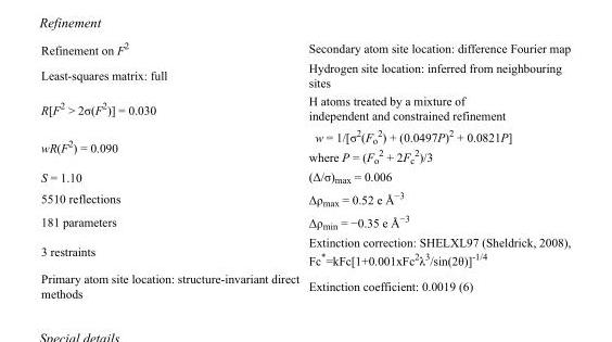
<table><tbody><tr><td>Refinement on F<sup>2</sup></td><td>Secondary atom site location: difference Fourier map</td></tr><tr><td>Least-squares matrix: full</td><td>Hydrogen site location: inferred from neighbouring sites</td></tr><tr><td>R[F<sup>2</sup> &gt; 2σ(F<sup>2</sup>)] = 0.030</td><td>H atoms treated by a mixture of independent and constrained refinement</td></tr><tr><td>wR(F<sup>2</sup>) = 0.090</td><td>w = 1/[σ<sup>2</sup>(F<sub>o</sub> <sup>2</sup>) + (0.0497P)<sup>2</sup> + 0.0821P] where P = (F<sub>o</sub> <sup>2</sup> + 2F<sub>c</sub> <sup>2</sup>)/3</td></tr><tr><td>S = 1.10</td><td>(Δ/σ)<sub>max</sub> = 0.006</td></tr><tr><td>5510 reflections</td><td>Δρ<sub>max</sub> = 0.52 e Å<sup>−3</sup></td></tr><tr><td>181 parameters</td><td>Δρ<sub>min</sub> = −0.35 e Å<sup>−3</sup></td></tr><tr><td>3 restraints</td><td>Extinction correction: SHELXL97 (Sheldrick, 2008), Fc*=kFc[1+0.001xFc<sup>2</sup>λ<sup>3</sup>/sin(2θ)]<sup>-1/4</sup></td></tr><tr><td>Primary atom site location: structure-invariant direct methods</td><td>Extinction coefficient: 0.0019 (6)</td></tr></tbody></table>